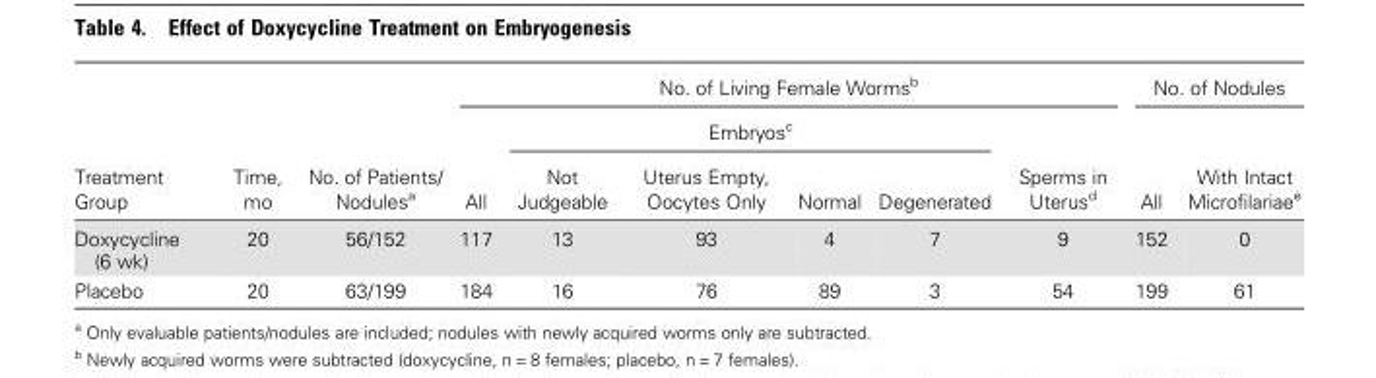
<table><thead><tr><td rowspan="3">Treatment Group</td><td rowspan="3">Time, mo</td><td rowspan="3">No. of Patients/ Nodules<sup>a</sup></td><td colspan="6">No. of Living Female Worms<sup>b</sup></td><td colspan="2">No. of Nodules</td></tr><tr><td rowspan="2">All</td><td colspan="4">Embryos<sup>c</sup></td><td rowspan="2">Sperms in Uterus<sup>d</sup></td><td rowspan="2">All</td><td rowspan="2">With Intact Microfilariae<sup>e</sup></td></tr><tr><td>Not Judgeable</td><td>Uterus Empty, Oocytes Only</td><td>Normal</td><td>Degenerated</td></tr></thead><tbody><tr><td>Doxycycline (6 wk)</td><td>20</td><td>56/152</td><td>117</td><td>13</td><td>93</td><td>4</td><td>7</td><td>9</td><td>152</td><td>0</td></tr><tr><td>Placebo</td><td>20</td><td>63/199</td><td>184</td><td>16</td><td>76</td><td>89</td><td>3</td><td>54</td><td>199</td><td>61</td></tr></tbody></table>